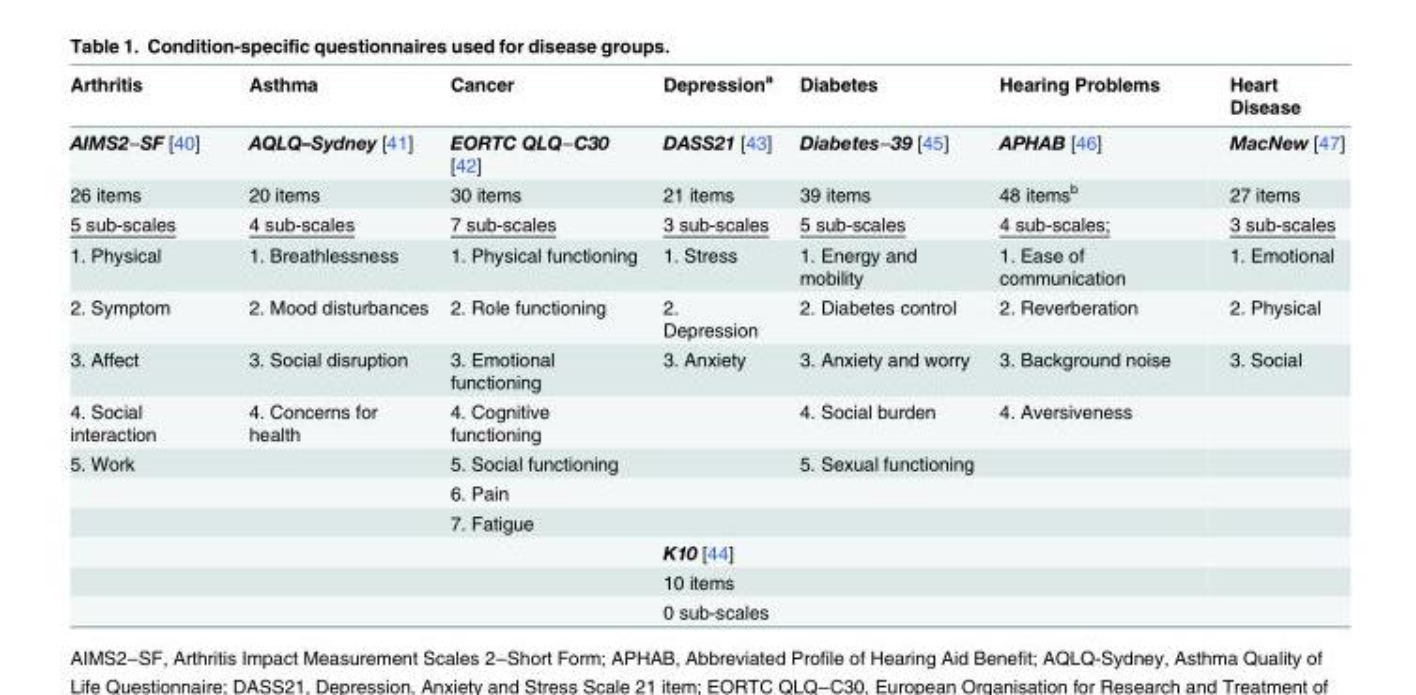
<table><thead><tr><td>Arthritis</td><td>Asthma</td><td>Cancer</td><td>Depression<sup>a</sup></td><td>Diabetes</td><td>Hearing Problems</td><td>Heart Disease</td></tr></thead><tbody><tr><td>AIMS2‒SF [40]</td><td>AQLQ–Sydney [41]</td><td>EORTC QLQ‒C30 [42]</td><td>DASS21 [43]</td><td>Diabetes‒39 [45]</td><td>APHAB [46]</td><td>MacNew [47]</td></tr><tr><td>26 items</td><td>20 items</td><td>30 items</td><td>21 items</td><td>39 items</td><td>48 items<sup>b</sup></td><td>27 items</td></tr><tr><td>5 sub-scales</td><td>4 sub-scales</td><td>7 sub-scales</td><td>3 sub-scales</td><td>5 sub-scales</td><td>4 sub-scales;</td><td>3 sub-scales</td></tr><tr><td>1. Physical</td><td>1. Breathlessness</td><td>1. Physical functioning</td><td>1. Stress</td><td>1. Energy and mobility</td><td>1. Ease of communication</td><td>1. Emotional</td></tr><tr><td>2. Symptom</td><td>2. Mood disturbances</td><td>2. Role functioning</td><td>2. Depression</td><td>2. Diabetes control</td><td>2. Reverberation</td><td>2. Physical</td></tr><tr><td>3. Affect</td><td>3. Social disruption</td><td>3. Emotional functioning</td><td>3. Anxiety</td><td>3. Anxiety and worry</td><td>3. Background noise</td><td>3. Social</td></tr><tr><td>4. Social interaction</td><td>4. Concerns for health</td><td>4. Cognitive functioning</td><td></td><td>4. Social burden</td><td>4. Aversiveness</td><td></td></tr><tr><td rowspan="6">5. Work</td><td></td><td>5. Social functioning</td><td></td><td>5. Sexual functioning</td><td></td><td></td></tr><tr><td></td><td>6. Pain</td><td></td><td></td><td></td><td></td></tr><tr><td></td><td>7. Fatigue</td><td></td><td></td><td></td><td></td></tr><tr><td></td><td></td><td>K10 [44]</td><td></td><td></td><td></td></tr><tr><td></td><td></td><td>10 items</td><td></td><td></td><td></td></tr><tr><td></td><td></td><td>0 sub-scales</td><td></td><td></td><td></td></tr></tbody></table>